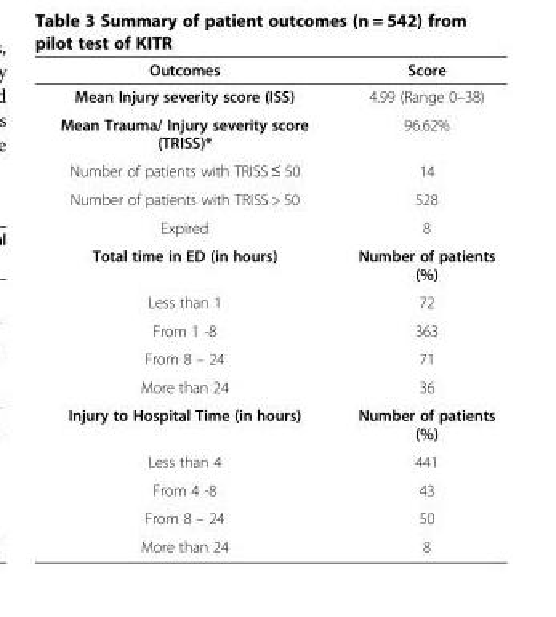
<table><thead><tr><td>Outcomes</td><td>Score</td></tr></thead><tbody><tr><td>Mean Injury severity score (ISS)</td><td>4.99 (Range 0–38)</td></tr><tr><td>Mean Trauma/ Injury severity score (TRISS)*</td><td>96.62%</td></tr><tr><td>Number of patients with TRISS ≤ 50</td><td>14</td></tr><tr><td>Number of patients with TRISS &gt; 50</td><td>528</td></tr><tr><td>Expired</td><td>8</td></tr><tr><td>Total time in ED (in hours)</td><td>Number of patients (%)</td></tr><tr><td>Less than 1</td><td>72</td></tr><tr><td>From 1 -8</td><td>363</td></tr><tr><td>From 8 – 24</td><td>71</td></tr><tr><td>More than 24</td><td>36</td></tr><tr><td>Injury to Hospital Time (in hours)</td><td>Number of patients (%)</td></tr><tr><td>Less than 4</td><td>441</td></tr><tr><td>From 4 -8</td><td>43</td></tr><tr><td>From 8 – 24</td><td>50</td></tr><tr><td>More than 24</td><td>8</td></tr></tbody></table>